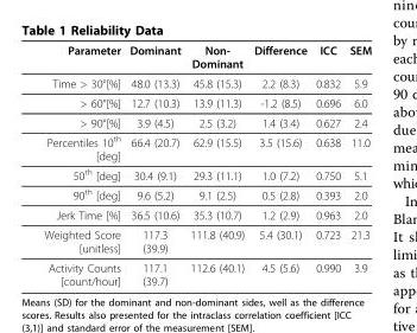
<table><thead><tr><td>Parameter</td><td>Dominant</td><td>Non- Dominant</td><td>Difference</td><td>ICC</td><td>SEM</td></tr></thead><tbody><tr><td>Time &gt; 30°[%]</td><td>48.0 (13.3)</td><td>45.8 (15.3)</td><td>2.2 (8.3)</td><td>0.832</td><td>5.9</td></tr><tr><td>&gt; 60°[%]</td><td>12.7 (10.3)</td><td>13.9 (11.3)</td><td>-1.2 (8.5)</td><td>0.696</td><td>6.0</td></tr><tr><td>&gt; 90°[%]</td><td>3.9 (4.5)</td><td>2.5 (3.2)</td><td>1.4 (3.4)</td><td>0.627</td><td>2.4</td></tr><tr><td>Percentiles 10<sup>th</sup> [deg]</td><td>66.4 (20.7)</td><td>62.9 (15.5)</td><td>3.5 (15.6)</td><td>0.638</td><td>11.0</td></tr><tr><td>50<sup>th</sup> [deg]</td><td>30.4 (9.1)</td><td>29.3 (11.1)</td><td>1.0 (7.2)</td><td>0.750</td><td>5.1</td></tr><tr><td>90<sup>th</sup> [deg]</td><td>9.6 (5.2)</td><td>9.1 (2.5)</td><td>0.5 (2.8)</td><td>0.393</td><td>2.0</td></tr><tr><td>Jerk Time [%]</td><td>36.5 (10.6)</td><td>35.3 (10.7)</td><td>1.2 (2.9)</td><td>0.963</td><td>2.0</td></tr><tr><td>Weighted Score [unitless]</td><td>117.3 (39.9)</td><td>111.8 (40.9)</td><td>5.4 (30.1)</td><td>0.723</td><td>21.3</td></tr><tr><td>Activity Counts [count/hour]</td><td>117.1 (39.7)</td><td>112.6 (40.1)</td><td>4.5 (5.6)</td><td>0.990</td><td>3.9</td></tr></tbody></table>